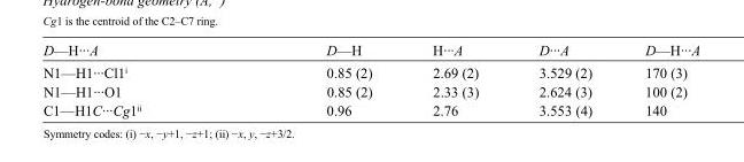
<table><tbody><tr><td>D—H···A</td><td>D—H</td><td>H···A</td><td>D···A</td><td>D—H···A</td></tr><tr><td>N1—H1···Cl1<sup>i</sup></td><td>0.85 (2)</td><td>2.69 (2)</td><td>3.529 (2)</td><td>170 (3)</td></tr><tr><td>N1—H1···O1</td><td>0.85 (2)</td><td>2.33 (3)</td><td>2.624 (3)</td><td>100 (2)</td></tr><tr><td>C1—H1C···Cg1<sup>ii</sup></td><td>0.96</td><td>2.76</td><td>3.553 (4)</td><td>140</td></tr></tbody></table>